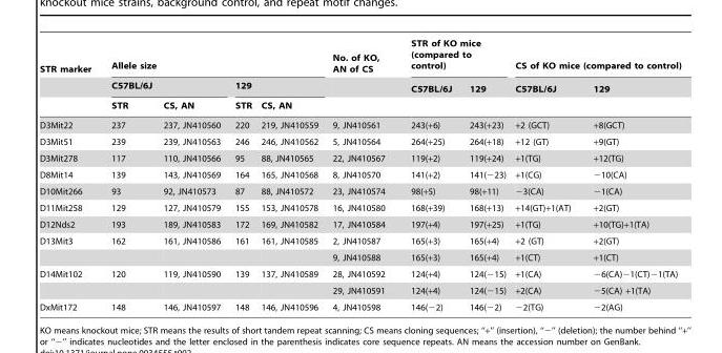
<table><thead><tr><td rowspan="3">STR marker</td><td colspan="4">Allele size</td><td rowspan="3">No. of KO, AN of CS</td><td colspan="2">STR of KO mice (compared to control)</td><td colspan="2">CS of KO mice (compared to control)</td></tr><tr><td colspan="2">C57BL/6J</td><td colspan="2">129</td><td rowspan="2">C57BL/6J</td><td rowspan="2">129</td><td rowspan="2">C57BL/6J</td><td rowspan="2">129</td></tr><tr><td>STR</td><td>CS, AN</td><td>STR</td><td>CS, AN</td></tr></thead><tbody><tr><td>D3Mit22</td><td>237</td><td>237, JN410560</td><td>220</td><td>219, JN410559</td><td>9, JN410561</td><td>243(+6)</td><td>243(+23)</td><td>+2 (GCT)</td><td>+8(GCT)</td></tr><tr><td>D3Mit51</td><td>239</td><td>239, JN410563</td><td>246</td><td>246, JN410562</td><td>5, JN410564</td><td>264(+25)</td><td>264(+18)</td><td>+12 (GT)</td><td>+9(GT)</td></tr><tr><td>D3Mit278</td><td>117</td><td>110, JN410566</td><td>95</td><td>88, JN410565</td><td>22, JN410567</td><td>119(+2)</td><td>119(+24)</td><td>+1(TG)</td><td>+12(TG)</td></tr><tr><td>D8Mit14</td><td>139</td><td>143, JN410569</td><td>164</td><td>165, JN410568</td><td>8, JN410570</td><td>141(+2)</td><td>141(−23)</td><td>+1(CG)</td><td>−10(CA)</td></tr><tr><td>D10Mit266</td><td>93</td><td>92, JN410573</td><td>87</td><td>88, JN410572</td><td>23, JN410574</td><td>98(+5)</td><td>98(+11)</td><td>−3(CA)</td><td>−1(CA)</td></tr><tr><td>D11Mit258</td><td>129</td><td>127, JN410579</td><td>155</td><td>153, JN410578</td><td>16, JN410580</td><td>168(+39)</td><td>168(+13)</td><td>+14(GT)+1(AT)</td><td>+2(GT)</td></tr><tr><td>D12Nds2</td><td>193</td><td>189, JN410583</td><td>172</td><td>169, JN410582</td><td>17, JN410584</td><td>197(+4)</td><td>197(+25)</td><td>+1(TG)</td><td>+10(TG)+1(TA)</td></tr><tr><td rowspan="2">D13Mit3</td><td>162</td><td>161, JN410586</td><td>161</td><td>161, JN410585</td><td>2, JN410587</td><td>165(+3)</td><td>165(+4)</td><td>+2 (GT)</td><td>+2(GT)</td></tr><tr><td></td><td></td><td></td><td></td><td>9, JN410588</td><td>165(+3)</td><td>165(+4)</td><td>+1(CT)</td><td>+1(CT)</td></tr><tr><td rowspan="2">D14Mit102</td><td>120</td><td>119, JN410590</td><td>139</td><td>137, JN410589</td><td>28, JN410592</td><td>124(+4)</td><td>124(−15)</td><td>+1(CA)</td><td>−6(CA)−1(CT)−1(TA)</td></tr><tr><td></td><td></td><td></td><td></td><td>29, JN410591</td><td>124(+4)</td><td>124(−15)</td><td>+2(CA)</td><td>−5(CA) +1(TA)</td></tr><tr><td>DxMit172</td><td>148</td><td>146, JN410597</td><td>148</td><td>146, JN410596</td><td>4, JN410598</td><td>146(−2)</td><td>146(−2)</td><td>−2(TG)</td><td>−2(AG)</td></tr></tbody></table>